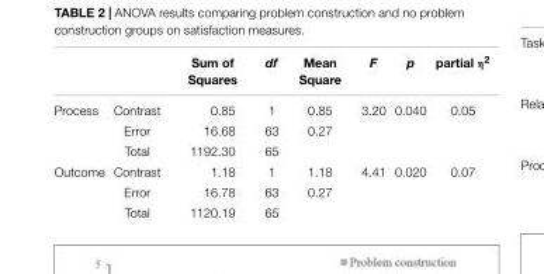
<table><thead><tr><td></td><td></td><td>Sum of Squares</td><td>df</td><td>Mean Square</td><td>F</td><td>p</td><td>partial η<sup>2</sup></td></tr></thead><tbody><tr><td rowspan="3">Process</td><td>Contrast</td><td>0.85</td><td>1</td><td>0.85</td><td>3.20</td><td>0.040</td><td>0.05</td></tr><tr><td>Error</td><td>16.68</td><td>63</td><td>0.27</td><td></td><td></td><td></td></tr><tr><td>Total</td><td>1192.30</td><td>65</td><td></td><td></td><td></td><td></td></tr><tr><td rowspan="3">Outcome</td><td>Contrast</td><td>1.18</td><td>1</td><td>1.18</td><td>4.41</td><td>0.020</td><td>0.07</td></tr><tr><td>Error</td><td>16.78</td><td>63</td><td>0.27</td><td></td><td></td><td></td></tr><tr><td>Total</td><td>1120.19</td><td>65</td><td></td><td></td><td></td><td></td></tr></tbody></table>